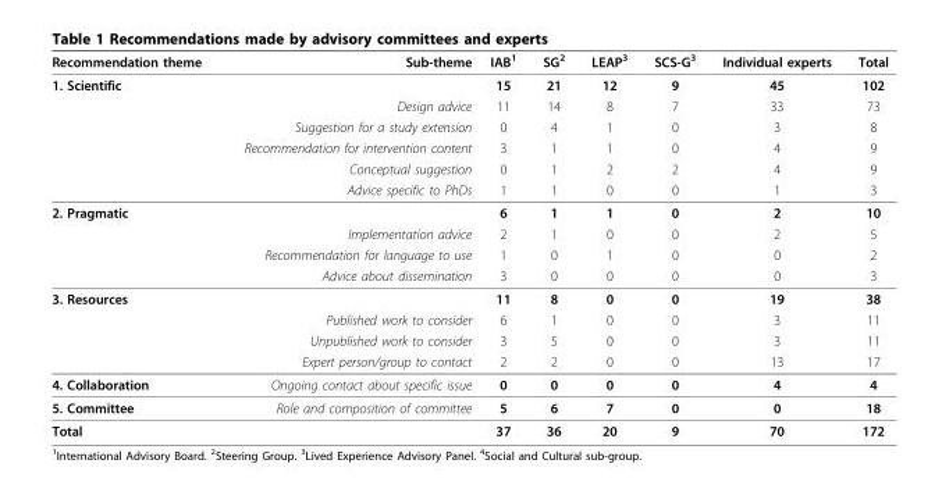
<table><thead><tr><td>Recommendation theme</td><td>Sub-theme</td><td>IAB<sup>1</sup></td><td>SG<sup>2</sup></td><td>LEAP<sup>3</sup></td><td>SCS-G<sup>3</sup></td><td>Individual experts</td><td>Total</td></tr></thead><tbody><tr><td rowspan="6">1. Scientific</td><td></td><td>15</td><td>21</td><td>12</td><td>9</td><td>45</td><td>102</td></tr><tr><td>Design advice</td><td>11</td><td>14</td><td>8</td><td>7</td><td>33</td><td>73</td></tr><tr><td>Suggestion for a study extension</td><td>0</td><td>4</td><td>1</td><td>0</td><td>3</td><td>8</td></tr><tr><td>Recommendation for intervention content</td><td>3</td><td>1</td><td>1</td><td>0</td><td>4</td><td>9</td></tr><tr><td>Conceptual suggestion</td><td>0</td><td>1</td><td>2</td><td>2</td><td>4</td><td>9</td></tr><tr><td>Advice specific to PhDs</td><td>1</td><td>1</td><td>0</td><td>0</td><td>1</td><td>3</td></tr><tr><td rowspan="4">2. Pragmatic</td><td></td><td>6</td><td>1</td><td>1</td><td>0</td><td>2</td><td>10</td></tr><tr><td>Implementation advice</td><td>2</td><td>1</td><td>0</td><td>0</td><td>2</td><td>5</td></tr><tr><td>Recommendation for language to use</td><td>1</td><td>0</td><td>1</td><td>0</td><td>0</td><td>2</td></tr><tr><td>Advice about dissemination</td><td>3</td><td>0</td><td>0</td><td>0</td><td>0</td><td>3</td></tr><tr><td rowspan="4">3. Resources</td><td></td><td>11</td><td>8</td><td>0</td><td>0</td><td>19</td><td>38</td></tr><tr><td>Published work to consider</td><td>6</td><td>1</td><td>0</td><td>0</td><td>3</td><td>11</td></tr><tr><td>Unpublished work to consider</td><td>3</td><td>5</td><td>0</td><td>0</td><td>3</td><td>11</td></tr><tr><td>Expert person/group to contact</td><td>2</td><td>2</td><td>0</td><td>0</td><td>13</td><td>17</td></tr><tr><td>4. Collaboration</td><td>Ongoing contact about specific issue</td><td>0</td><td>0</td><td>0</td><td>0</td><td>4</td><td>4</td></tr><tr><td>5. Committee</td><td>Role and composition of committee</td><td>5</td><td>6</td><td>7</td><td>0</td><td>0</td><td>18</td></tr><tr><td>Total</td><td></td><td>37</td><td>36</td><td>20</td><td>9</td><td>70</td><td>172</td></tr></tbody></table>